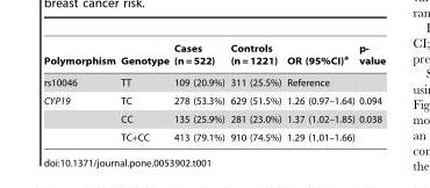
<table><thead><tr><td>Polymorphism</td><td>Genotype</td><td>Cases (n = 522)</td><td>Controls (n = 1221)</td><td>OR (95%CI)<sup>a</sup></td><td>p- value</td></tr></thead><tbody><tr><td>rs10046</td><td>TT</td><td>109 (20.9%)</td><td>311 (25.5%)</td><td>Reference</td><td></td></tr><tr><td rowspan="3">CYP19</td><td>TC</td><td>278 (53.3%)</td><td>629 (51.5%)</td><td>1.26 (0.97–1.64)</td><td>0.094</td></tr><tr><td>CC</td><td>135 (25.9%)</td><td>281 (23.0%)</td><td>1.37 (1.02–1.85)</td><td>0.038</td></tr><tr><td>TC+CC</td><td>413 (79.1%)</td><td>910 (74.5%)</td><td>1.29 (1.01–1.66)</td><td></td></tr></tbody></table>